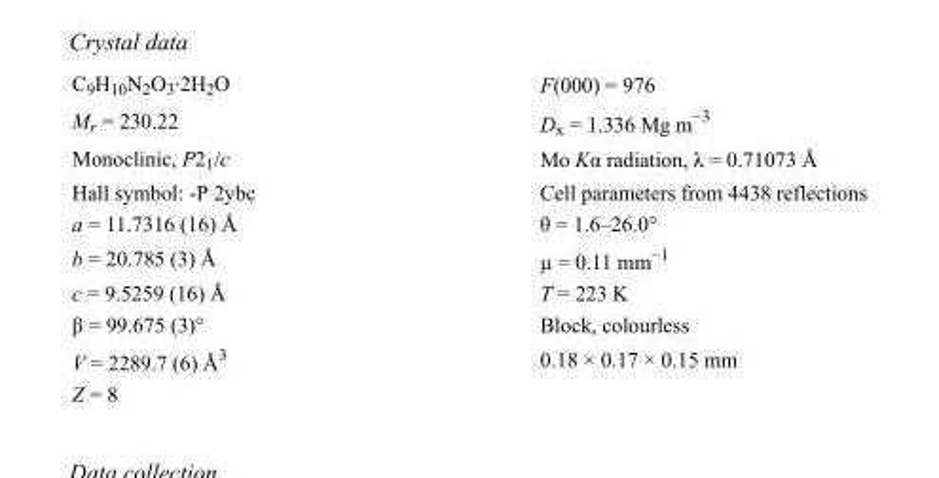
<table><tbody><tr><td>C<sub>9</sub>H<sub>10</sub>N<sub>2</sub>O<sub>3</sub>·2H<sub>2</sub>O</td><td>F(000) = 976</td></tr><tr><td>M<sub>r</sub> = 230.22</td><td>D<sub>x</sub> = 1.336 Mg m<sup>−3</sup></td></tr><tr><td>Monoclinic, P2<sub>1</sub>/c</td><td>Mo Kα radiation, λ = 0.71073 Å</td></tr><tr><td>Hall symbol: -P 2ybc</td><td>Cell parameters from 4438 reflections</td></tr><tr><td>a = 11.7316 (16) Å</td><td>θ = 1.6–26.0°</td></tr><tr><td>b = 20.785 (3) Å</td><td>µ = 0.11 mm<sup>−1</sup></td></tr><tr><td>c = 9.5259 (16) Å</td><td>T = 223 K</td></tr><tr><td>β = 99.675 (3)°</td><td>Block, colourless</td></tr><tr><td>V = 2289.7 (6) Å<sup>3</sup></td><td>0.18 × 0.17 × 0.15 mm</td></tr><tr><td>Z = 8</td><td></td></tr></tbody></table>